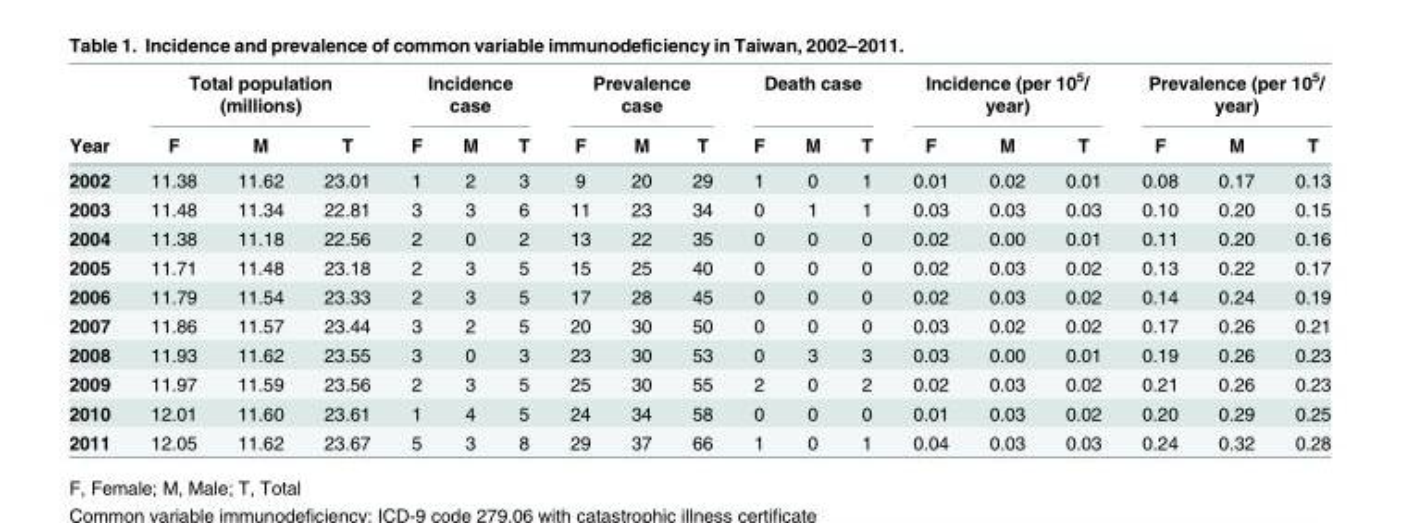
<table><thead><tr><td rowspan="2">Year</td><td colspan="3">Total population (millions)</td><td colspan="3">Incidence case</td><td colspan="3">Prevalence case</td><td colspan="3">Death case</td><td colspan="3">Incidence (per 10<sup>5</sup>/ year)</td><td colspan="3">Prevalence (per 10<sup>5</sup>/ year)</td></tr><tr><td>F</td><td>M</td><td>T</td><td>F</td><td>M</td><td>T</td><td>F</td><td>M</td><td>T</td><td>F</td><td>M</td><td>T</td><td>F</td><td>M</td><td>T</td><td>F</td><td>M</td><td>T</td></tr></thead><tbody><tr><td>2002</td><td>11.38</td><td>11.62</td><td>23.01</td><td>1</td><td>2</td><td>3</td><td>9</td><td>20</td><td>29</td><td>1</td><td>0</td><td>1</td><td>0.01</td><td>0.02</td><td>0.01</td><td>0.08</td><td>0.17</td><td>0.13</td></tr><tr><td>2003</td><td>11.48</td><td>11.34</td><td>22.81</td><td>3</td><td>3</td><td>6</td><td>11</td><td>23</td><td>34</td><td>0</td><td>1</td><td>1</td><td>0.03</td><td>0.03</td><td>0.03</td><td>0.10</td><td>0.20</td><td>0.15</td></tr><tr><td>2004</td><td>11.38</td><td>11.18</td><td>22.56</td><td>2</td><td>0</td><td>2</td><td>13</td><td>22</td><td>35</td><td>0</td><td>0</td><td>0</td><td>0.02</td><td>0.00</td><td>0.01</td><td>0.11</td><td>0.20</td><td>0.16</td></tr><tr><td>2005</td><td>11.71</td><td>11.48</td><td>23.18</td><td>2</td><td>3</td><td>5</td><td>15</td><td>25</td><td>40</td><td>0</td><td>0</td><td>0</td><td>0.02</td><td>0.03</td><td>0.02</td><td>0.13</td><td>0.22</td><td>0.17</td></tr><tr><td>2006</td><td>11.79</td><td>11.54</td><td>23.33</td><td>2</td><td>3</td><td>5</td><td>17</td><td>28</td><td>45</td><td>0</td><td>0</td><td>0</td><td>0.02</td><td>0.03</td><td>0.02</td><td>0.14</td><td>0.24</td><td>0.19</td></tr><tr><td>2007</td><td>11.86</td><td>11.57</td><td>23.44</td><td>3</td><td>2</td><td>5</td><td>20</td><td>30</td><td>50</td><td>0</td><td>0</td><td>0</td><td>0.03</td><td>0.02</td><td>0.02</td><td>0.17</td><td>0.26</td><td>0.21</td></tr><tr><td>2008</td><td>11.93</td><td>11.62</td><td>23.55</td><td>3</td><td>0</td><td>3</td><td>23</td><td>30</td><td>53</td><td>0</td><td>3</td><td>3</td><td>0.03</td><td>0.00</td><td>0.01</td><td>0.19</td><td>0.26</td><td>0.23</td></tr><tr><td>2009</td><td>11.97</td><td>11.59</td><td>23.56</td><td>2</td><td>3</td><td>5</td><td>25</td><td>30</td><td>55</td><td>2</td><td>0</td><td>2</td><td>0.02</td><td>0.03</td><td>0.02</td><td>0.21</td><td>0.26</td><td>0.23</td></tr><tr><td>2010</td><td>12.01</td><td>11.60</td><td>23.61</td><td>1</td><td>4</td><td>5</td><td>24</td><td>34</td><td>58</td><td>0</td><td>0</td><td>0</td><td>0.01</td><td>0.03</td><td>0.02</td><td>0.20</td><td>0.29</td><td>0.25</td></tr><tr><td>2011</td><td>12.05</td><td>11.62</td><td>23.67</td><td>5</td><td>3</td><td>8</td><td>29</td><td>37</td><td>66</td><td>1</td><td>0</td><td>1</td><td>0.04</td><td>0.03</td><td>0.03</td><td>0.24</td><td>0.32</td><td>0.28</td></tr></tbody></table>